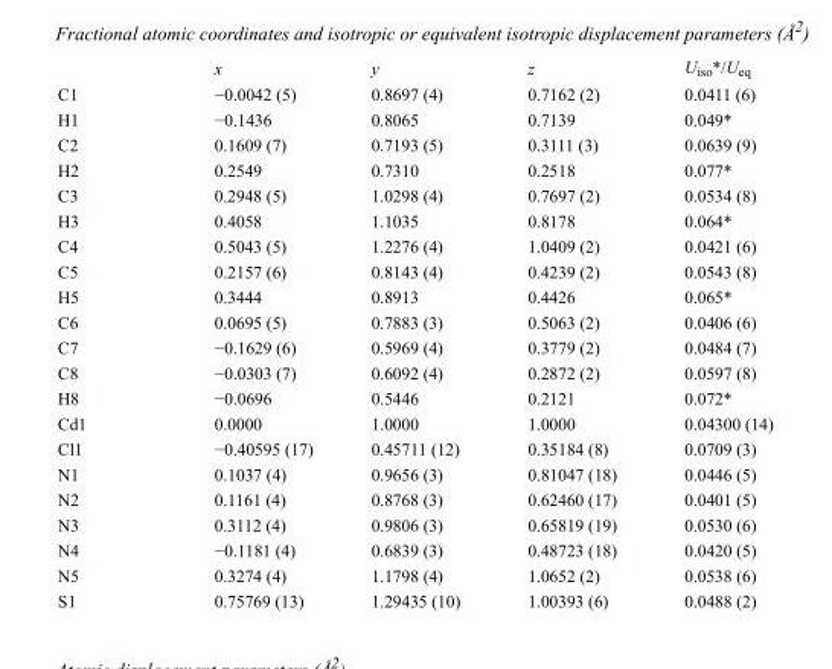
<table><thead><tr><td></td><td>x</td><td>y</td><td>z</td><td>U<sub>iso</sub>*/U<sub>eq</sub></td></tr></thead><tbody><tr><td>C1</td><td>−0.0042 (5)</td><td>0.8697 (4)</td><td>0.7162 (2)</td><td>0.0411 (6)</td></tr><tr><td>H1</td><td>−0.1436</td><td>0.8065</td><td>0.7139</td><td>0.049*</td></tr><tr><td>C2</td><td>0.1609 (7)</td><td>0.7193 (5)</td><td>0.3111 (3)</td><td>0.0639 (9)</td></tr><tr><td>H2</td><td>0.2549</td><td>0.7310</td><td>0.2518</td><td>0.077*</td></tr><tr><td>C3</td><td>0.2948 (5)</td><td>1.0298 (4)</td><td>0.7697 (2)</td><td>0.0534 (8)</td></tr><tr><td>H3</td><td>0.4058</td><td>1.1035</td><td>0.8178</td><td>0.064*</td></tr><tr><td>C4</td><td>0.5043 (5)</td><td>1.2276 (4)</td><td>1.0409 (2)</td><td>0.0421 (6)</td></tr><tr><td>C5</td><td>0.2157 (6)</td><td>0.8143 (4)</td><td>0.4239 (2)</td><td>0.0543 (8)</td></tr><tr><td>H5</td><td>0.3444</td><td>0.8913</td><td>0.4426</td><td>0.065*</td></tr><tr><td>C6</td><td>0.0695 (5)</td><td>0.7883 (3)</td><td>0.5063 (2)</td><td>0.0406 (6)</td></tr><tr><td>C7</td><td>−0.1629 (6)</td><td>0.5969 (4)</td><td>0.3779 (2)</td><td>0.0484 (7)</td></tr><tr><td>C8</td><td>−0.0303 (7)</td><td>0.6092 (4)</td><td>0.2872 (2)</td><td>0.0597 (8)</td></tr><tr><td>H8</td><td>−0.0696</td><td>0.5446</td><td>0.2121</td><td>0.072*</td></tr><tr><td>Cd1</td><td>0.0000</td><td>1.0000</td><td>1.0000</td><td>0.04300 (14)</td></tr><tr><td>Cl1</td><td>−0.40595 (17)</td><td>0.45711 (12)</td><td>0.35184 (8)</td><td>0.0709 (3)</td></tr><tr><td>N1</td><td>0.1037 (4)</td><td>0.9656 (3)</td><td>0.81047 (18)</td><td>0.0446 (5)</td></tr><tr><td>N2</td><td>0.1161 (4)</td><td>0.8768 (3)</td><td>0.62460 (17)</td><td>0.0401 (5)</td></tr><tr><td>N3</td><td>0.3112 (4)</td><td>0.9806 (3)</td><td>0.65819 (19)</td><td>0.0530 (6)</td></tr><tr><td>N4</td><td>−0.1181 (4)</td><td>0.6839 (3)</td><td>0.48723 (18)</td><td>0.0420 (5)</td></tr><tr><td>N5</td><td>0.3274 (4)</td><td>1.1798 (4)</td><td>1.0652 (2)</td><td>0.0538 (6)</td></tr><tr><td>S1</td><td>0.75769 (13)</td><td>1.29435 (10)</td><td>1.00393 (6)</td><td>0.0488 (2)</td></tr></tbody></table>